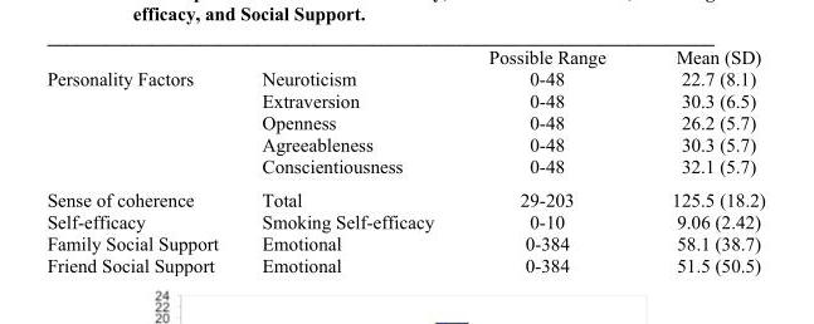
<table><thead><tr><td></td><td></td><td>Possible Range</td><td>Mean (SD)</td></tr></thead><tbody><tr><td rowspan="5">Personality Factors</td><td>Neuroticism</td><td>0-48</td><td>22.7 (8.1)</td></tr><tr><td>Extraversion</td><td>0-48</td><td>30.3 (6.5)</td></tr><tr><td>Openness</td><td>0-48</td><td>26.2 (5.7)</td></tr><tr><td>Agreeableness</td><td>0-48</td><td>30.3 (5.7)</td></tr><tr><td>Conscientiousness</td><td>0-48</td><td>32.1 (5.7)</td></tr><tr><td>Sense of coherence</td><td>Total</td><td>29-203</td><td>125.5 (18.2)</td></tr><tr><td>Self-efficacy</td><td>Smoking Self-efficacy</td><td>0-10</td><td>9.06 (2.42)</td></tr><tr><td>Family Social Support</td><td>Emotional</td><td>0-384</td><td>58.1 (38.7)</td></tr><tr><td>Friend Social Support</td><td>Emotional</td><td>0-384</td><td>51.5 (50.5)</td></tr></tbody></table>